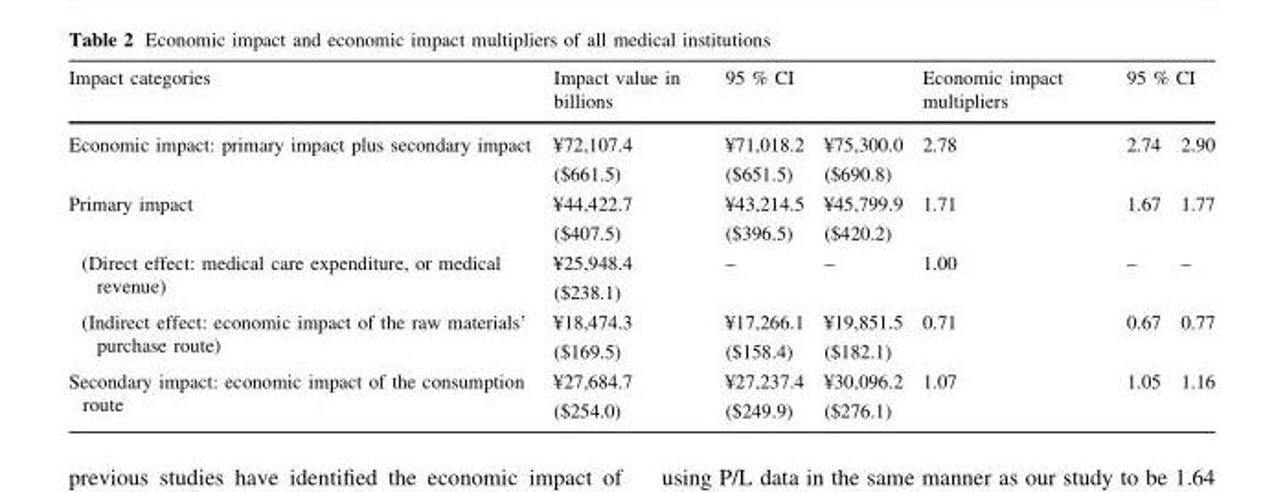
<table><thead><tr><td rowspan="2">Impact categories Economic impact: primary impact plus secondary impact</td><td rowspan="2">Impact value in billions ¥72,107.4 ($661.5)</td><td colspan="2">95 % CI</td><td rowspan="2">Economic impact multipliers 2.78</td><td colspan="2">95 % CI</td></tr><tr><td>¥71,018.2 ($651.5)</td><td>¥75,300.0 ($690.8)</td><td>2.74</td><td>2.90</td></tr></thead><tbody><tr><td>Primary impact</td><td>¥44,422.7 ($407.5)</td><td>¥43,214.5 ($396.5)</td><td>¥45,799.9 ($420.2)</td><td>1.71</td><td>1.67</td><td>1.77</td></tr><tr><td>(Direct effect: medical care expenditure, or medical revenue)</td><td>¥25,948.4 ($238.1)</td><td>–</td><td>–</td><td>1.00</td><td>–</td><td>–</td></tr><tr><td>(Indirect effect: economic impact of the raw materials’ purchase route)</td><td>¥18,474.3 ($169.5)</td><td>¥17,266.1 ($158.4)</td><td>¥19,851.5 ($182.1)</td><td>0.71</td><td>0.67</td><td>0.77</td></tr><tr><td>Secondary impact: economic impact of the consumption route</td><td>¥27,684.7 ($254.0)</td><td>¥27,237.4 ($249.9)</td><td>¥30,096.2 ($276.1)</td><td>1.07</td><td>1.05</td><td>1.16</td></tr></tbody></table>